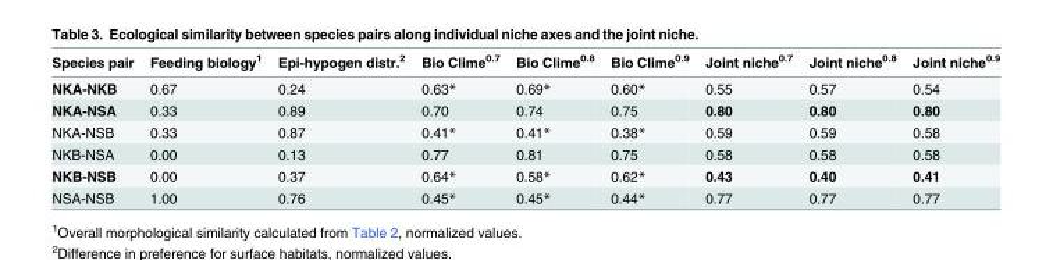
<table><thead><tr><td>Species pair</td><td>Feeding biology<sup>1</sup></td><td>Epi-hypogen distr.<sup>2</sup></td><td>Bio Clime<sup>0.7</sup></td><td>Bio Clime<sup>0.8</sup></td><td>Bio Clime<sup>0.9</sup></td><td>Joint niche<sup>0.7</sup></td><td>Joint niche<sup>0.8</sup></td><td>Joint niche<sup>0.9</sup></td></tr></thead><tbody><tr><td>NKA-NKB</td><td>0.67</td><td>0.24</td><td>0.63*</td><td>0.69*</td><td>0.60*</td><td>0.55</td><td>0.57</td><td>0.54</td></tr><tr><td>NKA-NSA</td><td>0.33</td><td>0.89</td><td>0.70</td><td>0.74</td><td>0.75</td><td>0.80</td><td>0.80</td><td>0.80</td></tr><tr><td>NKA-NSB</td><td>0.33</td><td>0.87</td><td>0.41*</td><td>0.41*</td><td>0.38*</td><td>0.59</td><td>0.59</td><td>0.58</td></tr><tr><td>NKB-NSA</td><td>0.00</td><td>0.13</td><td>0.77</td><td>0.81</td><td>0.75</td><td>0.58</td><td>0.58</td><td>0.58</td></tr><tr><td>NKB-NSB</td><td>0.00</td><td>0.37</td><td>0.64*</td><td>0.58*</td><td>0.62*</td><td>0.43</td><td>0.40</td><td>0.41</td></tr><tr><td>NSA-NSB</td><td>1.00</td><td>0.76</td><td>0.45*</td><td>0.45*</td><td>0.44*</td><td>0.77</td><td>0.77</td><td>0.77</td></tr></tbody></table>